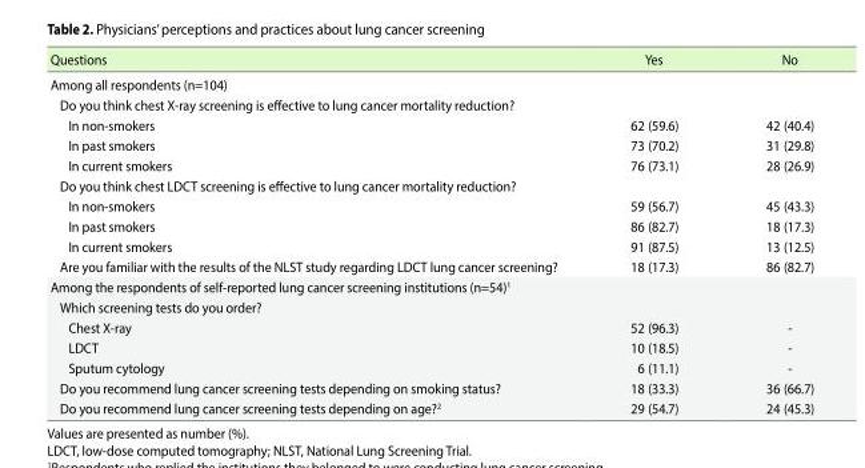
<table><thead><tr><td>Questions</td><td>Yes</td><td>No</td></tr></thead><tbody><tr><td colspan="3">Among all respondents (n=104)</td></tr><tr><td colspan="3">Do you think chest X-ray screening is effective to lung cancer mortality reduction?</td></tr><tr><td>In non-smokers</td><td>62 (59.6)</td><td>42 (40.4)</td></tr><tr><td>In past smokers</td><td>73 (70.2)</td><td>31 (29.8)</td></tr><tr><td>In current smokers</td><td>76 (73.1)</td><td>28 (26.9)</td></tr><tr><td colspan="3">Do you think chest LDCT screening is effective to lung cancer mortality reduction?</td></tr><tr><td>In non-smokers</td><td>59 (56.7)</td><td>45 (43.3)</td></tr><tr><td>In past smokers</td><td>86 (82.7)</td><td>18 (17.3)</td></tr><tr><td>In current smokers</td><td>91 (87.5)</td><td>13 (12.5)</td></tr><tr><td>Are you familiar with the results of the NLST study regarding LDCT lung cancer screening?</td><td>18 (17.3)</td><td>86 (82.7)</td></tr><tr><td colspan="3">Among the respondents of self-reported lung cancer screening institutions (n=54)<sup>1</sup></td></tr><tr><td colspan="3">Which screening tests do you order?</td></tr><tr><td>Chest X-ray</td><td>52 (96.3)</td><td>-</td></tr><tr><td>LDCT</td><td>10 (18.5)</td><td>-</td></tr><tr><td>Sputum cytology</td><td>6 (11.1)</td><td>-</td></tr><tr><td>Do you recommend lung cancer screening tests depending on smoking status?</td><td>18 (33.3)</td><td>36 (66.7)</td></tr><tr><td>Do you recommend lung cancer screening tests depending on age?<sup>2</sup></td><td>29 (54.7)</td><td>24 (45.3)</td></tr></tbody></table>